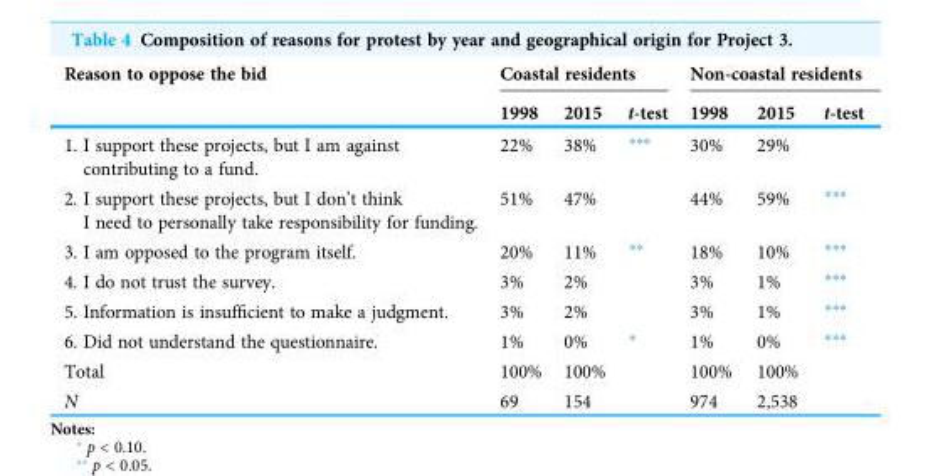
<table><thead><tr><td rowspan="2">Reason to oppose the bid</td><td colspan="3">Coastal residents</td><td colspan="3">Non-coastal residents</td></tr><tr><td>1998</td><td>2015</td><td>t-test</td><td>1998</td><td>2015</td><td>t-test</td></tr></thead><tbody><tr><td>1. I support these projects, but I am against contributing to a fund.</td><td>22%</td><td>38%</td><td>***</td><td>30%</td><td>29%</td><td></td></tr><tr><td>2. I support these projects, but I don’t think I need to personally take responsibility for funding.</td><td>51%</td><td>47%</td><td></td><td>44%</td><td>59%</td><td>***</td></tr><tr><td>3. I am opposed to the program itself.</td><td>20%</td><td>11%</td><td>**</td><td>18%</td><td>10%</td><td>***</td></tr><tr><td>4. I do not trust the survey.</td><td>3%</td><td>2%</td><td></td><td>3%</td><td>1%</td><td>***</td></tr><tr><td>5. Information is insufficient to make a judgment.</td><td>3%</td><td>2%</td><td></td><td>3%</td><td>1%</td><td>***</td></tr><tr><td>6. Did not understand the questionnaire.</td><td>1%</td><td>0%</td><td>*</td><td>1%</td><td>0%</td><td>***</td></tr><tr><td>Total</td><td>100%</td><td>100%</td><td></td><td>100%</td><td>100%</td><td></td></tr><tr><td>N</td><td>69</td><td>154</td><td></td><td>974</td><td>2,538</td><td></td></tr></tbody></table>